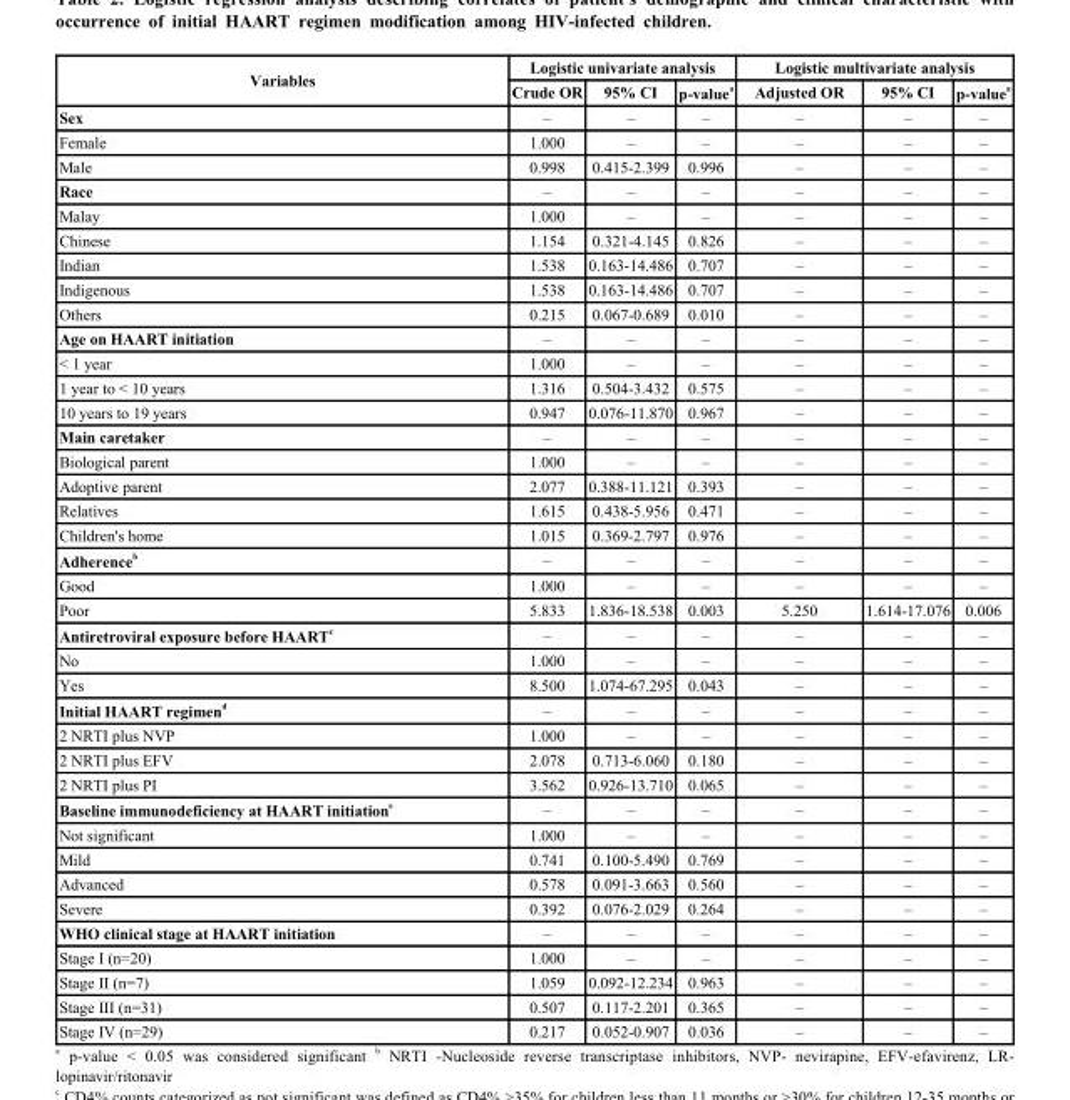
<table><thead><tr><td rowspan="2">Variables</td><td colspan="3">Logistic univariate analysis</td><td colspan="3">Logistic multivariate analysis</td></tr><tr><td>Crude OR</td><td>95% CI</td><td>p-value <sup>a</sup></td><td>Adjusted OR</td><td>95% CI</td><td>p-value <sup>a</sup></td></tr></thead><tbody><tr><td>Sex</td><td>–</td><td>–</td><td>–</td><td>–</td><td>–</td><td>–</td></tr><tr><td>Female</td><td>1.000</td><td>–</td><td>–</td><td>–</td><td>–</td><td>–</td></tr><tr><td>Male</td><td>0.998</td><td>0.415-2.399</td><td>0.996</td><td>–</td><td>–</td><td>–</td></tr><tr><td>Race</td><td>–</td><td>–</td><td>–</td><td>–</td><td>–</td><td>–</td></tr><tr><td>Malay</td><td>1.000</td><td>–</td><td>–</td><td>–</td><td>–</td><td>–</td></tr><tr><td>Chinese</td><td>1.154</td><td>0.321-4.145</td><td>0.826</td><td>–</td><td>–</td><td>–</td></tr><tr><td>Indian</td><td>1.538</td><td>0.163-14.486</td><td>0.707</td><td>–</td><td>–</td><td>–</td></tr><tr><td>Indigenous</td><td>1.538</td><td>0.163-14.486</td><td>0.707</td><td>–</td><td>–</td><td>–</td></tr><tr><td>Others</td><td>0.215</td><td>0.067-0.689</td><td>0.010</td><td>–</td><td>–</td><td>–</td></tr><tr><td>Age on HAART initiation</td><td>–</td><td>–</td><td>–</td><td>–</td><td>–</td><td>–</td></tr><tr><td>&lt; 1 year</td><td>1.000</td><td>–</td><td>–</td><td>–</td><td>–</td><td>–</td></tr><tr><td>1 year to &lt; 10 years</td><td>1.316</td><td>0.504-3.432</td><td>0.575</td><td>–</td><td>–</td><td>–</td></tr><tr><td>10 years to 19 years</td><td>0.947</td><td>0.076-11.870</td><td>0.967</td><td>–</td><td>–</td><td>–</td></tr><tr><td>Main caretaker</td><td>–</td><td>–</td><td>–</td><td>–</td><td>–</td><td>–</td></tr><tr><td>Biological parent</td><td>1.000</td><td>–</td><td>–</td><td>–</td><td>–</td><td>–</td></tr><tr><td>Adoptive parent</td><td>2.077</td><td>0.388-11.121</td><td>0.393</td><td>–</td><td>–</td><td>–</td></tr><tr><td>Relatives</td><td>1.615</td><td>0.438-5.956</td><td>0.471</td><td>–</td><td>–</td><td>–</td></tr><tr><td>Children&#x27;s home</td><td>1.015</td><td>0.369-2.797</td><td>0.976</td><td>–</td><td>–</td><td>–</td></tr><tr><td>Adherence <sup>b</sup></td><td>–</td><td>–</td><td>–</td><td>–</td><td>–</td><td>–</td></tr><tr><td>Good</td><td>1.000</td><td>–</td><td>–</td><td>–</td><td>–</td><td>–</td></tr><tr><td>Poor</td><td>5.833</td><td>1.836-18.538</td><td>0.003</td><td>5.250</td><td>1.614-17.076</td><td>0.006</td></tr><tr><td>Antiretroviral exposure before HAART <sup>c</sup></td><td>–</td><td>–</td><td>–</td><td>–</td><td>–</td><td>–</td></tr><tr><td>No</td><td>1.000</td><td>–</td><td>–</td><td>–</td><td>–</td><td>–</td></tr><tr><td>Yes</td><td>8.500</td><td>1.074-67.295</td><td>0.043</td><td>–</td><td>–</td><td>–</td></tr><tr><td>Initial HAART regimen <sup>d</sup></td><td>–</td><td>–</td><td>–</td><td>–</td><td>–</td><td>–</td></tr><tr><td>2 NRTI plus NVP</td><td>1.000</td><td>–</td><td>–</td><td>–</td><td>–</td><td>–</td></tr><tr><td>2 NRTI plus EFV</td><td>2.078</td><td>0.713-6.060</td><td>0.180</td><td>–</td><td>–</td><td>–</td></tr><tr><td>2 NRTI plus PI</td><td>3.562</td><td>0.926-13.710</td><td>0.065</td><td>–</td><td>–</td><td>–</td></tr><tr><td>Baseline immunodeficiency at HAART initiation <sup>e</sup></td><td>–</td><td>–</td><td>–</td><td>–</td><td>–</td><td>–</td></tr><tr><td>Not significant</td><td>1.000</td><td>–</td><td>–</td><td>–</td><td>–</td><td>–</td></tr><tr><td>Mild</td><td>0.741</td><td>0.100-5.490</td><td>0.769</td><td>–</td><td>–</td><td>–</td></tr><tr><td>Advanced</td><td>0.578</td><td>0.091-3.663</td><td>0.560</td><td>–</td><td>–</td><td>–</td></tr><tr><td>Severe</td><td>0.392</td><td>0.076-2.029</td><td>0.264</td><td>–</td><td>–</td><td>–</td></tr><tr><td>WHO clinical stage at HAART initiation</td><td>–</td><td>–</td><td>–</td><td>–</td><td>–</td><td>–</td></tr><tr><td>Stage I (n=20)</td><td>1.000</td><td>–</td><td>–</td><td>–</td><td>–</td><td>–</td></tr><tr><td>Stage II (n=7)</td><td>1.059</td><td>0.092-12.234</td><td>0.963</td><td>–</td><td>–</td><td>–</td></tr><tr><td>Stage III (n=31)</td><td>0.507</td><td>0.117-2.201</td><td>0.365</td><td>–</td><td>–</td><td>–</td></tr><tr><td>Stage IV (n=29)</td><td>0.217</td><td>0.052-0.907</td><td>0.036</td><td>–</td><td>–</td><td>–</td></tr></tbody></table>